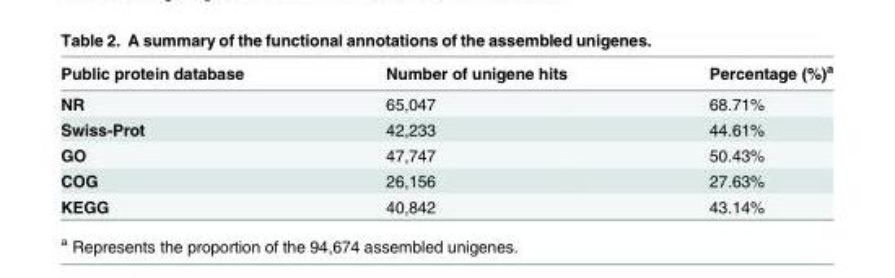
<table><thead><tr><td>Public protein database</td><td>Number of unigene hits</td><td>Percentage (%)<sup>a</sup></td></tr></thead><tbody><tr><td>NR</td><td>65,047</td><td>68.71%</td></tr><tr><td>Swiss-Prot</td><td>42,233</td><td>44.61%</td></tr><tr><td>GO</td><td>47,747</td><td>50.43%</td></tr><tr><td>COG</td><td>26,156</td><td>27.63%</td></tr><tr><td>KEGG</td><td>40,842</td><td>43.14%</td></tr></tbody></table>